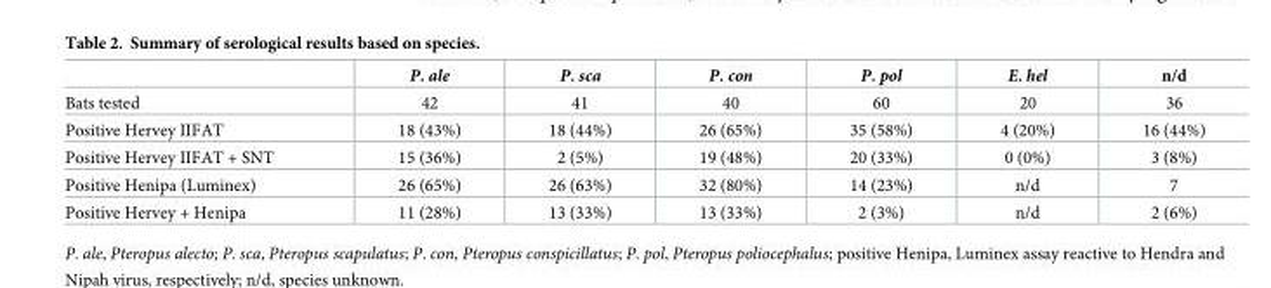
<table><thead><tr><td></td><td>P. ale</td><td>P. sca</td><td>P. con</td><td>P. pol</td><td>E. hel</td><td>n/d</td></tr></thead><tbody><tr><td>Bats tested</td><td>42</td><td>41</td><td>40</td><td>60</td><td>20</td><td>36</td></tr><tr><td>Positive Hervey IIFAT</td><td>18 (43%)</td><td>18 (44%)</td><td>26 (65%)</td><td>35 (58%)</td><td>4 (20%)</td><td>16 (44%)</td></tr><tr><td>Positive Hervey IIFAT + SNT</td><td>15 (36%)</td><td>2 (5%)</td><td>19 (48%)</td><td>20 (33%)</td><td>0 (0%)</td><td>3 (8%)</td></tr><tr><td>Positive Henipa (Luminex)</td><td>26 (65%)</td><td>26 (63%)</td><td>32 (80%)</td><td>14 (23%)</td><td>n/d</td><td>7</td></tr><tr><td>Positive Hervey + Henipa</td><td>11 (28%)</td><td>13 (33%)</td><td>13 (33%)</td><td>2 (3%)</td><td>n/d</td><td>2 (6%)</td></tr></tbody></table>